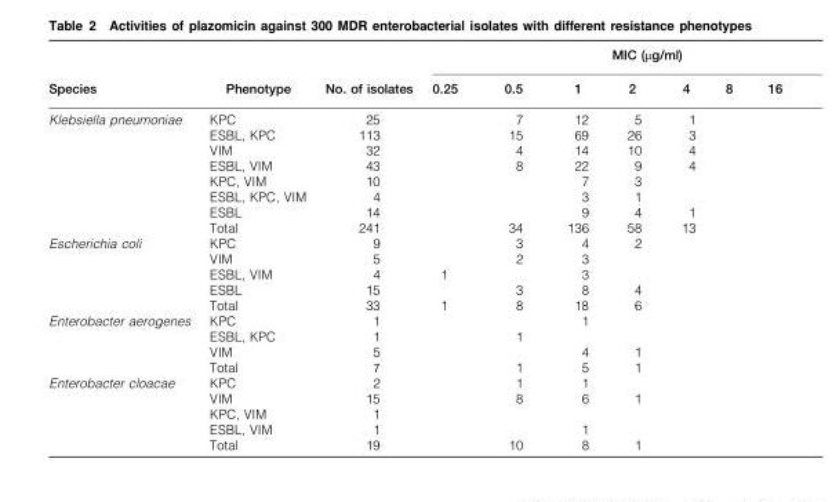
<table><thead><tr><td rowspan="2">Species</td><td rowspan="2">Phenotype</td><td rowspan="2">No. of isolates</td><td colspan="7">MIC (μg/ml)</td></tr><tr><td>0.25</td><td>0.5</td><td>1</td><td>2</td><td>4</td><td>8</td><td>16</td></tr></thead><tbody><tr><td rowspan="8">Klebsiella pneumoniae</td><td>KPC</td><td>25</td><td></td><td>7</td><td>12</td><td>5</td><td>1</td><td></td><td></td></tr><tr><td>ESBL, KPC</td><td>113</td><td></td><td>15</td><td>69</td><td>26</td><td>3</td><td></td><td></td></tr><tr><td>VIM</td><td>32</td><td></td><td>4</td><td>14</td><td>10</td><td>4</td><td></td><td></td></tr><tr><td>ESBL, VIM</td><td>43</td><td></td><td>8</td><td>22</td><td>9</td><td>4</td><td></td><td></td></tr><tr><td>KPC, VIM</td><td>10</td><td></td><td></td><td>7</td><td>3</td><td></td><td></td><td></td></tr><tr><td>ESBL, KPC, VIM</td><td>4</td><td></td><td></td><td>3</td><td>1</td><td></td><td></td><td></td></tr><tr><td>ESBL</td><td>14</td><td></td><td></td><td>9</td><td>4</td><td>1</td><td></td><td></td></tr><tr><td>Total</td><td>241</td><td></td><td>34</td><td>136</td><td>58</td><td>13</td><td></td><td></td></tr><tr><td rowspan="5">Escherichia coli</td><td>KPC</td><td>9</td><td></td><td>3</td><td>4</td><td>2</td><td></td><td></td><td></td></tr><tr><td>VIM</td><td>5</td><td></td><td>2</td><td>3</td><td></td><td></td><td></td><td></td></tr><tr><td>ESBL, VIM</td><td>4</td><td>1</td><td></td><td>3</td><td></td><td></td><td></td><td></td></tr><tr><td>ESBL</td><td>15</td><td></td><td>3</td><td>8</td><td>4</td><td></td><td></td><td></td></tr><tr><td>Total</td><td>33</td><td>1</td><td>8</td><td>18</td><td>6</td><td></td><td></td><td></td></tr><tr><td rowspan="4">Enterobacter aerogenes</td><td>KPC</td><td>1</td><td></td><td></td><td>1</td><td></td><td></td><td></td><td></td></tr><tr><td>ESBL, KPC</td><td>1</td><td></td><td>1</td><td></td><td></td><td></td><td></td><td></td></tr><tr><td>VIM</td><td>5</td><td></td><td></td><td>4</td><td>1</td><td></td><td></td><td></td></tr><tr><td>Total</td><td>7</td><td></td><td>1</td><td>5</td><td>1</td><td></td><td></td><td></td></tr><tr><td rowspan="5">Enterobacter cloacae</td><td>KPC</td><td>2</td><td></td><td>1</td><td>1</td><td></td><td></td><td></td><td></td></tr><tr><td>VIM</td><td>15</td><td></td><td>8</td><td>6</td><td>1</td><td></td><td></td><td></td></tr><tr><td>KPC, VIM</td><td>1</td><td></td><td></td><td></td><td></td><td></td><td></td><td></td></tr><tr><td>ESBL, VIM</td><td>1</td><td></td><td></td><td>1</td><td></td><td></td><td></td><td></td></tr><tr><td>Total</td><td>19</td><td></td><td>10</td><td>8</td><td>1</td><td></td><td></td><td></td></tr></tbody></table>